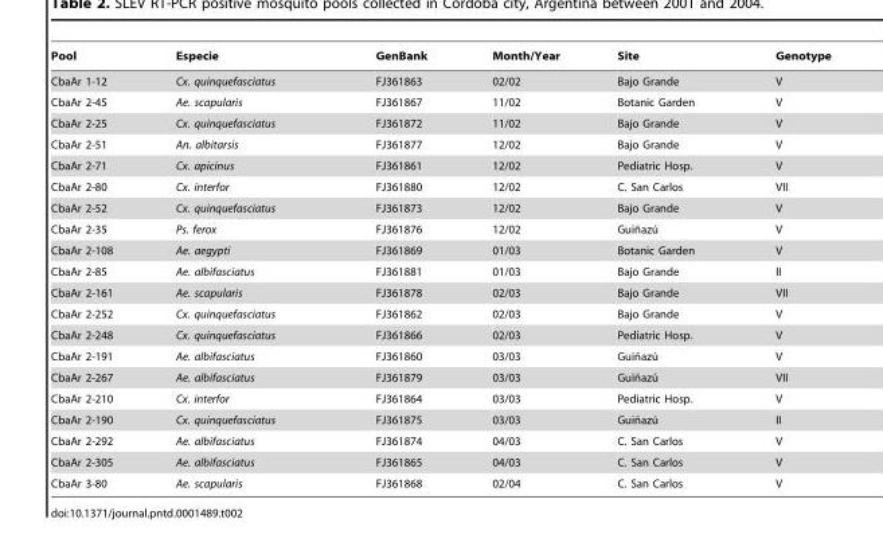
<table><thead><tr><td>Pool</td><td>Especie</td><td>GenBank</td><td>Month/Year</td><td>Site</td><td>Genotype</td></tr></thead><tbody><tr><td>CbaAr 1-12</td><td>Cx. quinquefasciatus</td><td>FJ361863</td><td>02/02</td><td>Bajo Grande</td><td>V</td></tr><tr><td>CbaAr 2-45</td><td>Ae. scapularis</td><td>FJ361867</td><td>11/02</td><td>Botanic Garden</td><td>V</td></tr><tr><td>CbaAr 2-25</td><td>Cx. quinquefasciatus</td><td>FJ361872</td><td>11/02</td><td>Bajo Grande</td><td>V</td></tr><tr><td>CbaAr 2-51</td><td>An. albitarsis</td><td>FJ361877</td><td>12/02</td><td>Bajo Grande</td><td>V</td></tr><tr><td>CbaAr 2-71</td><td>Cx. apicinus</td><td>FJ361861</td><td>12/02</td><td>Pediatric Hosp.</td><td>V</td></tr><tr><td>CbaAr 2-80</td><td>Cx. interfor</td><td>FJ361880</td><td>12/02</td><td>C. San Carlos</td><td>VII</td></tr><tr><td>CbaAr 2-52</td><td>Cx. quinquefasciatus</td><td>FJ361873</td><td>12/02</td><td>Bajo Grande</td><td>V</td></tr><tr><td>CbaAr 2-35</td><td>Ps. ferox</td><td>FJ361876</td><td>12/02</td><td>Guin˜azu´</td><td>V</td></tr><tr><td>CbaAr 2-108</td><td>Ae. aegypti</td><td>FJ361869</td><td>01/03</td><td>Botanic Garden</td><td>V</td></tr><tr><td>CbaAr 2-85</td><td>Ae. albifasciatus</td><td>FJ361881</td><td>01/03</td><td>Bajo Grande</td><td>II</td></tr><tr><td>CbaAr 2-161</td><td>Ae. scapularis</td><td>FJ361878</td><td>02/03</td><td>Bajo Grande</td><td>VII</td></tr><tr><td>CbaAr 2-252</td><td>Cx. quinquefasciatus</td><td>FJ361862</td><td>02/03</td><td>Bajo Grande</td><td>V</td></tr><tr><td>CbaAr 2-248</td><td>Cx. quinquefasciatus</td><td>FJ361866</td><td>02/03</td><td>Pediatric Hosp.</td><td>V</td></tr><tr><td>CbaAr 2-191</td><td>Ae. albifasciatus</td><td>FJ361860</td><td>03/03</td><td>Guin˜azu´</td><td>V</td></tr><tr><td>CbaAr 2-267</td><td>Ae. albifasciatus</td><td>FJ361879</td><td>03/03</td><td>Guin˜azu´</td><td>VII</td></tr><tr><td>CbaAr 2-210</td><td>Cx. interfor</td><td>FJ361864</td><td>03/03</td><td>Pediatric Hosp.</td><td>V</td></tr><tr><td>CbaAr 2-190</td><td>Cx. quinquefasciatus</td><td>FJ361875</td><td>03/03</td><td>Guin˜azu´</td><td>II</td></tr><tr><td>CbaAr 2-292</td><td>Ae. albifasciatus</td><td>FJ361874</td><td>04/03</td><td>C. San Carlos</td><td>V</td></tr><tr><td>CbaAr 2-305</td><td>Ae. albifasciatus</td><td>FJ361865</td><td>04/03</td><td>C. San Carlos</td><td>V</td></tr><tr><td>CbaAr 3-80</td><td>Ae. scapularis</td><td>FJ361868</td><td>02/04</td><td>C. San Carlos</td><td>V</td></tr></tbody></table>